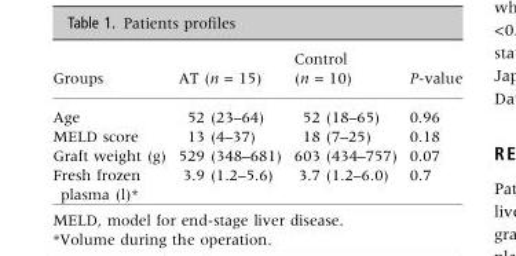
<table><thead><tr><td>Groups</td><td>AT (n = 15)</td><td>Control (n = 10)</td><td>P-value</td></tr></thead><tbody><tr><td>Age</td><td>52 (23–64)</td><td>52 (18–65)</td><td>0.96</td></tr><tr><td>MELD score</td><td>13 (4–37)</td><td>18 (7–25)</td><td>0.18</td></tr><tr><td>Graft weight (g)</td><td>529 (348–681)</td><td>603 (434–757)</td><td>0.07</td></tr><tr><td>Fresh frozen plasma (l)*</td><td>3.9 (1.2–5.6)</td><td>3.7 (1.2–6.0)</td><td>0.7</td></tr></tbody></table>